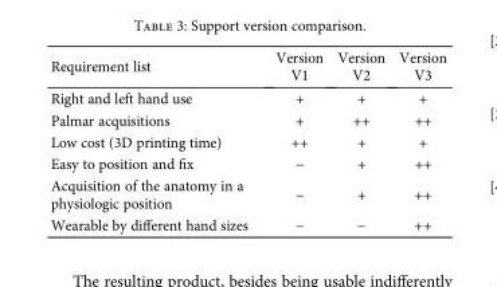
<table><thead><tr><td>Requirement list</td><td>Version V1</td><td>Version V2</td><td>Version V3</td></tr></thead><tbody><tr><td>Right and left hand use</td><td>+</td><td>+</td><td>+</td></tr><tr><td>Palmar acquisitions</td><td>+</td><td>++</td><td>++</td></tr><tr><td>Low cost (3D printing time)</td><td>++</td><td>+</td><td>+</td></tr><tr><td>Easy to position and fix</td><td>−</td><td>+</td><td>++</td></tr><tr><td>Acquisition of the anatomy in a physiologic position</td><td>−</td><td>+</td><td>++</td></tr><tr><td>Wearable by different hand sizes</td><td>−</td><td>−</td><td>++</td></tr></tbody></table>